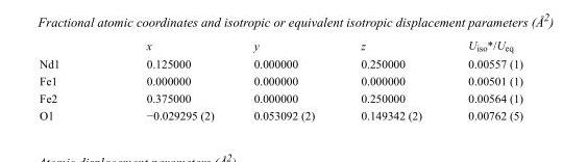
<table><thead><tr><td></td><td>x</td><td>y</td><td>z</td><td>U<sub>iso</sub>*/U<sub>eq</sub></td></tr></thead><tbody><tr><td>Nd1</td><td>0.125000</td><td>0.000000</td><td>0.250000</td><td>0.00557 (1)</td></tr><tr><td>Fe1</td><td>0.000000</td><td>0.000000</td><td>0.000000</td><td>0.00501 (1)</td></tr><tr><td>Fe2</td><td>0.375000</td><td>0.000000</td><td>0.250000</td><td>0.00564 (1)</td></tr><tr><td>O1</td><td>−0.029295 (2)</td><td>0.053092 (2)</td><td>0.149342 (2)</td><td>0.00762 (5)</td></tr></tbody></table>